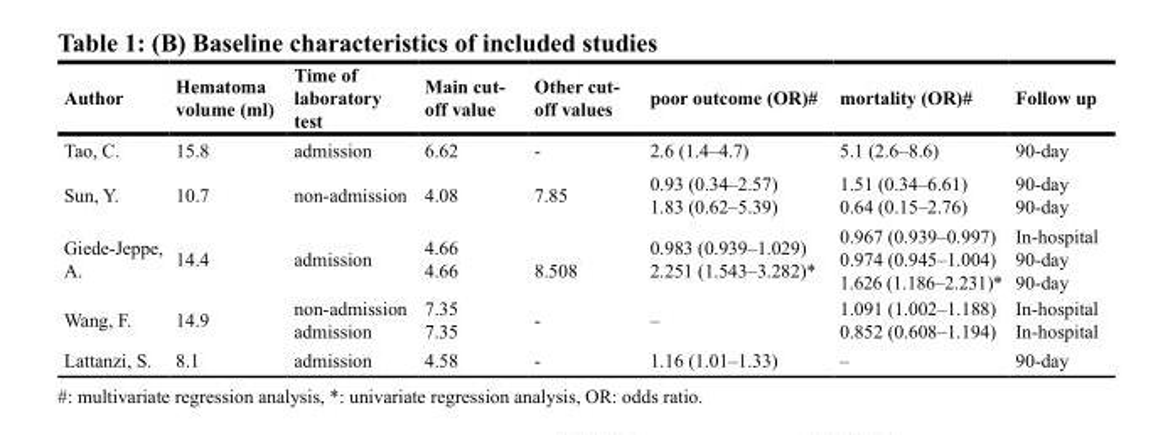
<table><thead><tr><td>Author</td><td>Hematoma volume (ml)</td><td>Time of laboratory test</td><td>Main cut- off value</td><td>Other cut- off values</td><td>poor outcome (OR)#</td><td>mortality (OR)#</td><td>Follow up</td></tr></thead><tbody><tr><td>Tao, C.</td><td>15.8</td><td>admission</td><td>6.62</td><td>-</td><td>2.6 (1.4–4.7)</td><td>5.1 (2.6–8.6)</td><td>90-day</td></tr><tr><td>Sun, Y.</td><td>10.7</td><td>non-admission</td><td>4.08</td><td>7.85</td><td>0.93 (0.34–2.57) 1.83 (0.62–5.39)</td><td>1.51 (0.34–6.61) 0.64 (0.15–2.76)</td><td>90-day 90-day</td></tr><tr><td>Giede-Jeppe, A.</td><td>14.4</td><td>admission</td><td>4.66 4.66</td><td>8.508</td><td>0.983 (0.939–1.029) 2.251 (1.543–3.282)*</td><td>0.967 (0.939–0.997) 0.974 (0.945–1.004) 1.626 (1.186–2.231)*</td><td>In-hospital 90-day 90-day</td></tr><tr><td>Wang, F.</td><td>14.9</td><td>non-admission admission</td><td>7.35 7.35</td><td>-</td><td>–</td><td>1.091 (1.002–1.188) 0.852 (0.608–1.194)</td><td>In-hospital In-hospital</td></tr><tr><td>Lattanzi, S.</td><td>8.1</td><td>admission</td><td>4.58</td><td>-</td><td>1.16 (1.01–1.33)</td><td>–</td><td>90-day</td></tr></tbody></table>